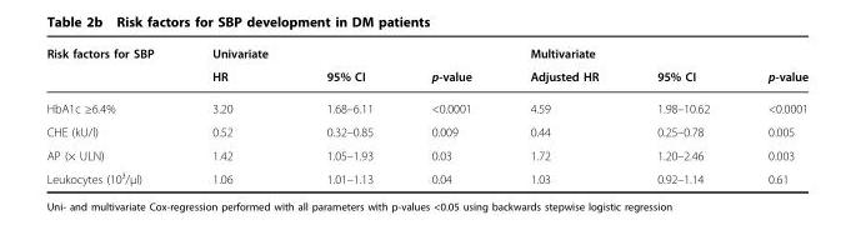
<table><thead><tr><td rowspan="2">Risk factors for SBP</td><td rowspan="2">Univariate HR</td><td rowspan="2">95% CI</td><td rowspan="2">p-value</td><td rowspan="2">Multivariate Adjusted HR</td><td rowspan="2">95% CI</td><td rowspan="2">p-value</td></tr><tr></tr></thead><tbody><tr><td>HbA1c ≥6.4%</td><td>3.20</td><td>1.68–6.11</td><td>&lt;0.0001</td><td>4.59</td><td>1.98–10.62</td><td>&lt;0.0001</td></tr><tr><td>CHE (kU/l)</td><td>0.52</td><td>0.32–0.85</td><td>0.009</td><td>0.44</td><td>0.25–0.78</td><td>0.005</td></tr><tr><td>AP (× ULN)</td><td>1.42</td><td>1.05–1.93</td><td>0.03</td><td>1.72</td><td>1.20–2.46</td><td>0.003</td></tr><tr><td>Leukocytes (10³/μl)</td><td>1.06</td><td>1.01–1.13</td><td>0.04</td><td>1.03</td><td>0.92–1.14</td><td>0.61</td></tr></tbody></table>